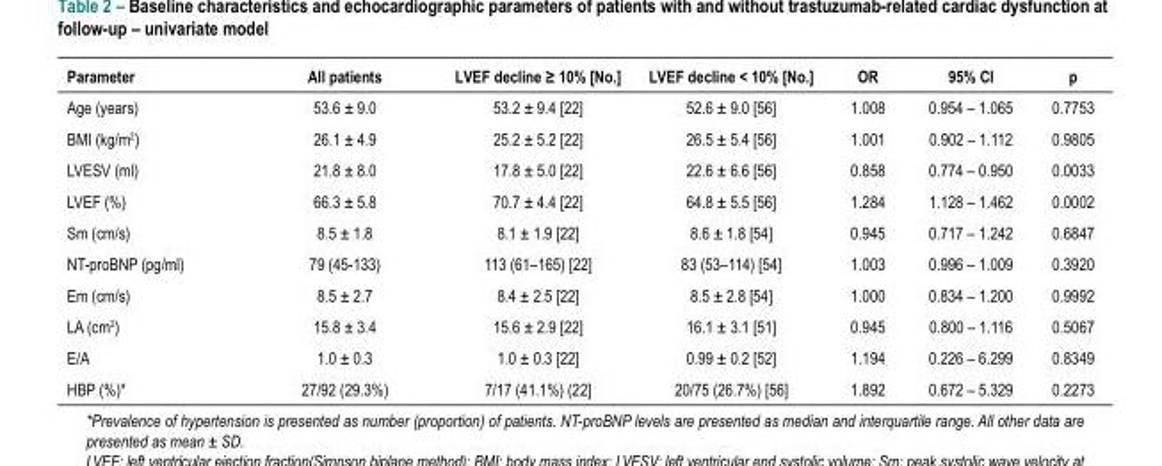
<table><thead><tr><td>Parameter</td><td>All patients</td><td>LVEF decline ≥ 10% [No.]</td><td>LVEF decline &lt; 10% [No.]</td><td>OR</td><td>95% CI</td><td>p</td></tr></thead><tbody><tr><td>Age (years)</td><td>53.6 ± 9.0</td><td>53.2 ± 9.4 [22]</td><td>52.6 ± 9.0 [56]</td><td>1.008</td><td>0.954 – 1.065</td><td>0.7753</td></tr><tr><td>BMI (kg/m<sup>2</sup>)</td><td>26.1 ± 4.9</td><td>25.2 ± 5.2 [22]</td><td>26.5 ± 5.4 [56]</td><td>1.001</td><td>0.902 – 1.112</td><td>0.9805</td></tr><tr><td>LVESV (ml)</td><td>21.8 ± 8.0</td><td>17.8 ± 5.0 [22]</td><td>22.6 ± 6.6 [56]</td><td>0.858</td><td>0.774 – 0.950</td><td>0.0033</td></tr><tr><td>LVEF (%)</td><td>66.3 ± 5.8</td><td>70.7 ± 4.4 [22]</td><td>64.8 ± 5.5 [56]</td><td>1.284</td><td>1.128 – 1.462</td><td>0.0002</td></tr><tr><td>Sm (cm/s)</td><td>8.5 ± 1.8</td><td>8.1 ± 1.9 [22]</td><td>8.6 ± 1.8 [54]</td><td>0.945</td><td>0.717 – 1.242</td><td>0.6847</td></tr><tr><td>NT-proBNP (pg/ml)</td><td>79 (45-133)</td><td>113 (61–165) [22]</td><td>83 (53–114) [54]</td><td>1.003</td><td>0.996 – 1.009</td><td>0.3920</td></tr><tr><td>Em (cm/s)</td><td>8.5 ± 2.7</td><td>8.4 ± 2.5 [22]</td><td>8.5 ± 2.8 [54]</td><td>1.000</td><td>0.834 – 1.200</td><td>0.9992</td></tr><tr><td>LA (cm<sup>2</sup>)</td><td>15.8 ± 3.4</td><td>15.6 ± 2.9 [22]</td><td>16.1 ± 3.1 [51]</td><td>0.945</td><td>0.800 – 1.116</td><td>0.5067</td></tr><tr><td>E/A</td><td>1.0 ± 0.3</td><td>1.0 ± 0.3 [22]</td><td>0.99 ± 0.2 [52]</td><td>1.194</td><td>0.226 – 6.299</td><td>0.8349</td></tr><tr><td>HBP (%)*</td><td>27/92 (29.3%)</td><td>7/17 (41.1%) (22]</td><td>20/75 (26.7%) [56]</td><td>1.892</td><td>0.672 – 5.329</td><td>0.2273</td></tr></tbody></table>